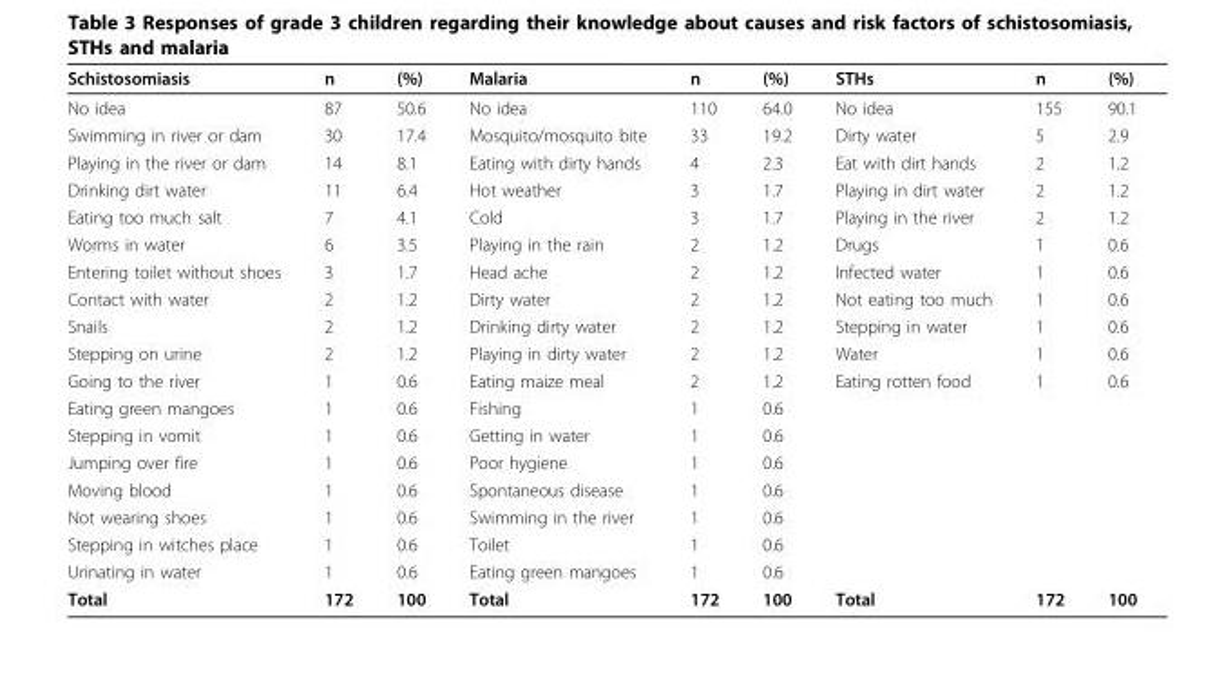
<table><thead><tr><td>Schistosomiasis</td><td>n</td><td>(%)</td><td>Malaria</td><td>n</td><td>(%)</td><td>STHs</td><td>n</td><td>(%)</td></tr></thead><tbody><tr><td>No idea</td><td>87</td><td>50.6</td><td>No idea</td><td>110</td><td>64.0</td><td>No idea</td><td>155</td><td>90.1</td></tr><tr><td>Swimming in river or dam</td><td>30</td><td>17.4</td><td>Mosquito/mosquito bite</td><td>33</td><td>19.2</td><td>Dirty water</td><td>5</td><td>2.9</td></tr><tr><td>Playing in the river or dam</td><td>14</td><td>8.1</td><td>Eating with dirty hands</td><td>4</td><td>2.3</td><td>Eat with dirt hands</td><td>2</td><td>1.2</td></tr><tr><td>Drinking dirt water</td><td>11</td><td>6.4</td><td>Hot weather</td><td>3</td><td>1.7</td><td>Playing in dirt water</td><td>2</td><td>1.2</td></tr><tr><td>Eating too much salt</td><td>7</td><td>4.1</td><td>Cold</td><td>3</td><td>1.7</td><td>Playing in the river</td><td>2</td><td>1.2</td></tr><tr><td>Worms in water</td><td>6</td><td>3.5</td><td>Playing in the rain</td><td>2</td><td>1.2</td><td>Drugs</td><td>1</td><td>0.6</td></tr><tr><td>Entering toilet without shoes</td><td>3</td><td>1.7</td><td>Head ache</td><td>2</td><td>1.2</td><td>Infected water</td><td>1</td><td>0.6</td></tr><tr><td>Contact with water</td><td>2</td><td>1.2</td><td>Dirty water</td><td>2</td><td>1.2</td><td>Not eating too much</td><td>1</td><td>0.6</td></tr><tr><td>Snails</td><td>2</td><td>1.2</td><td>Drinking dirty water</td><td>2</td><td>1.2</td><td>Stepping in water</td><td>1</td><td>0.6</td></tr><tr><td>Stepping on urine</td><td>2</td><td>1.2</td><td>Playing in dirty water</td><td>2</td><td>1.2</td><td>Water</td><td>1</td><td>0.6</td></tr><tr><td>Going to the river</td><td>1</td><td>0.6</td><td>Eating maize meal</td><td>2</td><td>1.2</td><td>Eating rotten food</td><td>1</td><td>0.6</td></tr><tr><td>Eating green mangoes</td><td>1</td><td>0.6</td><td>Fishing</td><td>1</td><td>0.6</td><td></td><td></td><td></td></tr><tr><td>Stepping in vomit</td><td>1</td><td>0.6</td><td>Getting in water</td><td>1</td><td>0.6</td><td></td><td></td><td></td></tr><tr><td>Jumping over fire</td><td>1</td><td>0.6</td><td>Poor hygiene</td><td>1</td><td>0.6</td><td></td><td></td><td></td></tr><tr><td>Moving blood</td><td>1</td><td>0.6</td><td>Spontaneous disease</td><td>1</td><td>0.6</td><td></td><td></td><td></td></tr><tr><td>Not wearing shoes</td><td>1</td><td>0.6</td><td>Swimming in the river</td><td>1</td><td>0.6</td><td></td><td></td><td></td></tr><tr><td>Stepping in witches place</td><td>1</td><td>0.6</td><td>Toilet</td><td>1</td><td>0.6</td><td></td><td></td><td></td></tr><tr><td>Urinating in water</td><td>1</td><td>0.6</td><td>Eating green mangoes</td><td>1</td><td>0.6</td><td></td><td></td><td></td></tr><tr><td>Total</td><td>172</td><td>100</td><td>Total</td><td>172</td><td>100</td><td>Total</td><td>172</td><td>100</td></tr></tbody></table>